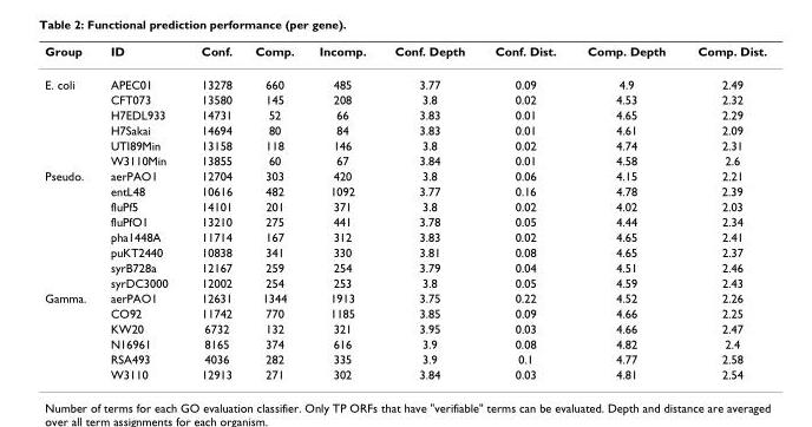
<table><thead><tr><td>Group</td><td>ID</td><td>Conf.</td><td>Comp.</td><td>Incomp.</td><td>Conf. Depth</td><td>Conf. Dist.</td><td>Comp. Depth</td><td>Comp. Dist.</td></tr></thead><tbody><tr><td rowspan="6">E. coli</td><td>APEC01</td><td>13278</td><td>660</td><td>485</td><td>3.77</td><td>0.09</td><td>4.9</td><td>2.49</td></tr><tr><td>CFT073</td><td>13580</td><td>145</td><td>208</td><td>3.8</td><td>0.02</td><td>4.53</td><td>2.32</td></tr><tr><td>H7EDL933</td><td>14731</td><td>52</td><td>66</td><td>3.83</td><td>0.01</td><td>4.65</td><td>2.29</td></tr><tr><td>H7Sakai</td><td>14694</td><td>80</td><td>84</td><td>3.83</td><td>0.01</td><td>4.61</td><td>2.09</td></tr><tr><td>UTI89Min</td><td>13158</td><td>118</td><td>146</td><td>3.8</td><td>0.02</td><td>4.74</td><td>2.31</td></tr><tr><td>W3110Min</td><td>13855</td><td>60</td><td>67</td><td>3.84</td><td>0.01</td><td>4.58</td><td>2.6</td></tr><tr><td rowspan="8">Pseudo.</td><td>aerPAO1</td><td>12704</td><td>303</td><td>420</td><td>3.8</td><td>0.06</td><td>4.15</td><td>2.21</td></tr><tr><td>entL48</td><td>10616</td><td>482</td><td>1092</td><td>3.77</td><td>0.16</td><td>4.78</td><td>2.39</td></tr><tr><td>fluPf5</td><td>14101</td><td>201</td><td>371</td><td>3.8</td><td>0.02</td><td>4.02</td><td>2.03</td></tr><tr><td>fluPfO1</td><td>13210</td><td>275</td><td>441</td><td>3.78</td><td>0.05</td><td>4.44</td><td>2.34</td></tr><tr><td>pha1448A</td><td>11714</td><td>167</td><td>312</td><td>3.83</td><td>0.02</td><td>4.65</td><td>2.41</td></tr><tr><td>puKT2440</td><td>10838</td><td>341</td><td>330</td><td>3.81</td><td>0.08</td><td>4.65</td><td>2.37</td></tr><tr><td>syrB728a</td><td>12167</td><td>259</td><td>254</td><td>3.79</td><td>0.04</td><td>4.51</td><td>2.46</td></tr><tr><td>syrDC3000</td><td>12002</td><td>254</td><td>253</td><td>3.8</td><td>0.05</td><td>4.59</td><td>2.43</td></tr><tr><td rowspan="6">Gamma.</td><td>aerPAO1</td><td>12631</td><td>1344</td><td>1913</td><td>3.75</td><td>0.22</td><td>4.52</td><td>2.26</td></tr><tr><td>CO92</td><td>11742</td><td>770</td><td>1185</td><td>3.85</td><td>0.09</td><td>4.66</td><td>2.25</td></tr><tr><td>KW20</td><td>6732</td><td>132</td><td>321</td><td>3.95</td><td>0.03</td><td>4.66</td><td>2.47</td></tr><tr><td>N16961</td><td>8165</td><td>374</td><td>616</td><td>3.9</td><td>0.08</td><td>4.82</td><td>2.4</td></tr><tr><td>RSA493</td><td>4036</td><td>282</td><td>335</td><td>3.9</td><td>0.1</td><td>4.77</td><td>2.58</td></tr><tr><td>W3110</td><td>12913</td><td>271</td><td>302</td><td>3.84</td><td>0.03</td><td>4.81</td><td>2.54</td></tr></tbody></table>